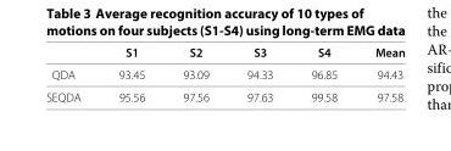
<table><thead><tr><td></td><td>S1</td><td>S2</td><td>S3</td><td>S4</td><td>Mean</td></tr></thead><tbody><tr><td>QDA</td><td>93.45</td><td>93.09</td><td>94.33</td><td>96.85</td><td>94.43</td></tr><tr><td>SEQDA</td><td>95.56</td><td>97.56</td><td>97.63</td><td>99.58</td><td>97.58</td></tr></tbody></table>